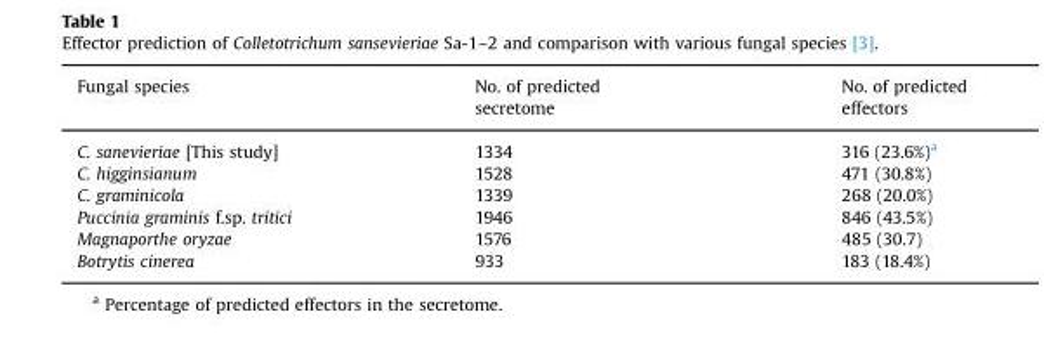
<table><thead><tr><td>Fungal species</td><td>No. of predicted secretome</td><td>No. of predicted effectors</td></tr></thead><tbody><tr><td>C. sanevieriae [This study]</td><td>1334</td><td>316 (23.6%)<sup>a</sup></td></tr><tr><td>C. higginsianum</td><td>1528</td><td>471 (30.8%)</td></tr><tr><td>C. graminicola</td><td>1339</td><td>268 (20.0%)</td></tr><tr><td>Puccinia graminis f.sp. tritici</td><td>1946</td><td>846 (43.5%)</td></tr><tr><td>Magnaporthe oryzae</td><td>1576</td><td>485 (30.7)</td></tr><tr><td>Botrytis cinerea</td><td>933</td><td>183 (18.4%)</td></tr></tbody></table>